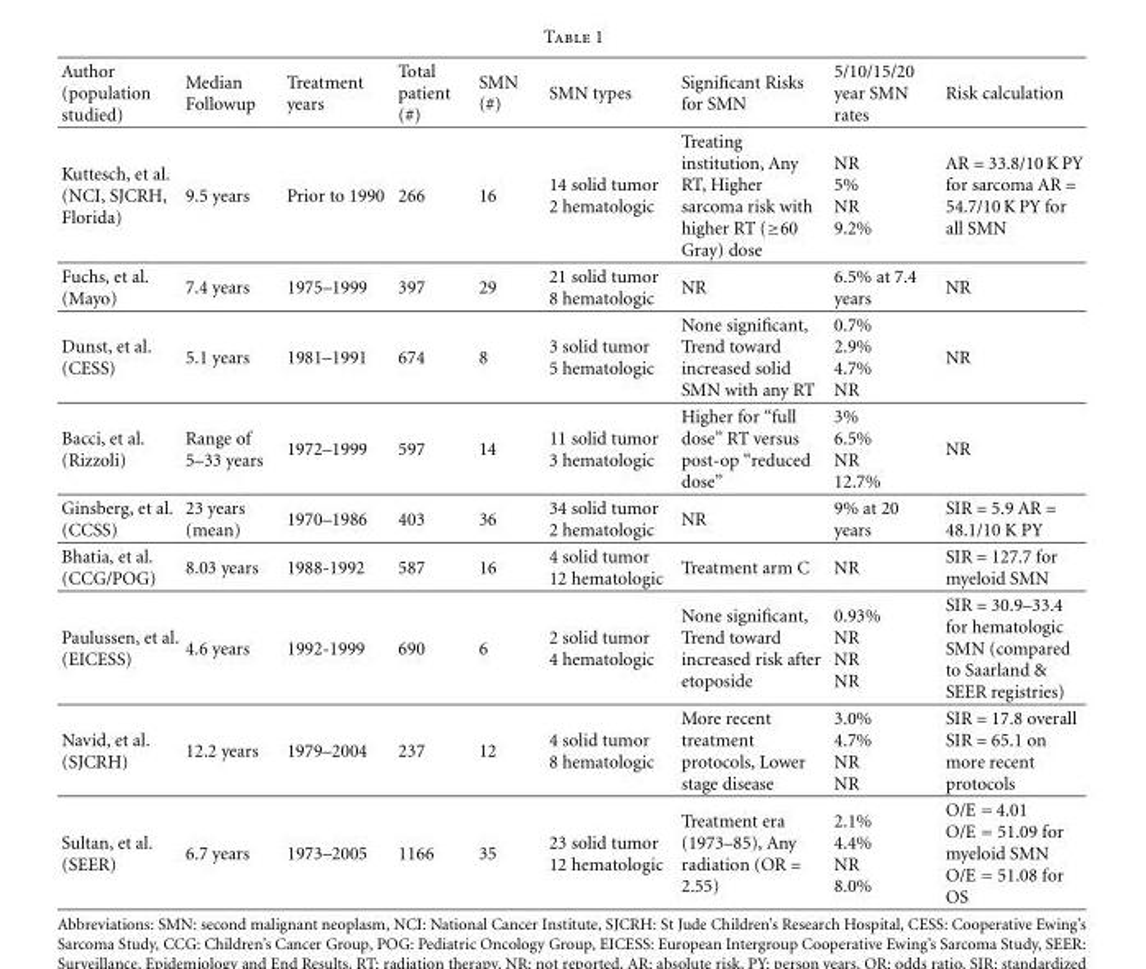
<table><thead><tr><td>Author (population studied)</td><td>Median Followup</td><td>Treatment years</td><td>Total patient (#)</td><td>SMN (#)</td><td>SMN types</td><td>Significant Risks for SMN</td><td>5/10/15/20 year SMN rates</td><td>Risk calculation</td></tr></thead><tbody><tr><td>Kuttesch, et al. (NCI, SJCRH, Florida)</td><td>9.5 years</td><td>Prior to 1990</td><td>266</td><td>16</td><td>14 solid tumor 2 hematologic</td><td>Treating institution, Any RT, Higher sarcoma risk with higher RT (≥60 Gray) dose</td><td>NR 5% NR 9.2%</td><td>AR = 33.8/10 K PY for sarcoma AR = 54.7/10 K PY for all SMN</td></tr><tr><td>Fuchs, et al. (Mayo)</td><td>7.4 years</td><td>1975–1999</td><td>397</td><td>29</td><td>21 solid tumor 8 hematologic</td><td>NR</td><td>6.5% at 7.4 years</td><td>NR</td></tr><tr><td>Dunst, et al. (CESS)</td><td>5.1 years</td><td>1981–1991</td><td>674</td><td>8</td><td>3 solid tumor 5 hematologic</td><td>None significant, Trend toward increased solid SMN with any RT</td><td>0.7% 2.9% 4.7% NR</td><td>NR</td></tr><tr><td>Bacci, et al. (Rizzoli)</td><td>Range of 5–33 years</td><td>1972–1999</td><td>597</td><td>14</td><td>11 solid tumor 3 hematologic</td><td>Higher for “full dose” RT versus post-op “reduced dose”</td><td>3% 6.5% NR 12.7%</td><td>NR</td></tr><tr><td>Ginsberg, et al. (CCSS)</td><td>23 years (mean)</td><td>1970–1986</td><td>403</td><td>36</td><td>34 solid tumor 2 hematologic</td><td>NR</td><td>9% at 20 years</td><td>SIR = 5.9 AR = 48.1/10 K PY</td></tr><tr><td>Bhatia, et al. (CCG/POG)</td><td>8.03 years</td><td>1988-1992</td><td>587</td><td>16</td><td>4 solid tumor 12 hematologic</td><td>Treatment arm C</td><td>NR</td><td>SIR = 127.7 for myeloid SMN</td></tr><tr><td>Paulussen, et al. (EICESS)</td><td>4.6 years</td><td>1992-1999</td><td>690</td><td>6</td><td>2 solid tumor 4 hematologic</td><td>None significant, Trend toward increased risk after etoposide</td><td>0.93% NR NR NR</td><td>SIR = 30.9–33.4 for hematologic SMN (compared to Saarland &amp; SEER registries)</td></tr><tr><td>Navid, et al. (SJCRH)</td><td>12.2 years</td><td>1979–2004</td><td>237</td><td>12</td><td>4 solid tumor 8 hematologic</td><td>More recent treatment protocols, Lower stage disease</td><td>3.0% 4.7% NR NR</td><td>SIR = 17.8 overall SIR = 65.1 on more recent protocols</td></tr><tr><td>Sultan, et al. (SEER)</td><td>6.7 years</td><td>1973–2005</td><td>1166</td><td>35</td><td>23 solid tumor 12 hematologic</td><td>Treatment era (1973–85), Any radiation (OR = 2.55)</td><td>2.1% 4.4% NR 8.0%</td><td>O/E = 4.01 O/E = 51.09 for myeloid SMN O/E = 51.08 for OS</td></tr></tbody></table>